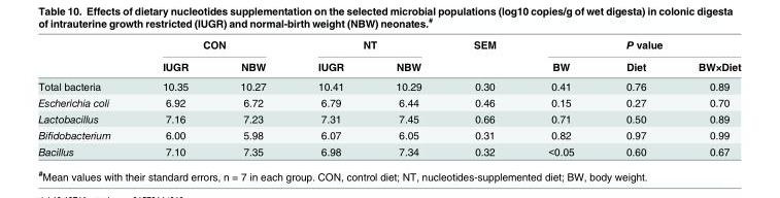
<table><thead><tr><td rowspan="2"></td><td colspan="2">CON</td><td colspan="2">NT</td><td rowspan="2">SEM</td><td colspan="3">P value</td></tr><tr><td>IUGR</td><td>NBW</td><td>IUGR</td><td>NBW</td><td>BW</td><td>Diet</td><td>BW×Diet</td></tr></thead><tbody><tr><td>Total bacteria</td><td>10.35</td><td>10.27</td><td>10.41</td><td>10.29</td><td>0.30</td><td>0.41</td><td>0.76</td><td>0.89</td></tr><tr><td>Escherichia coli</td><td>6.92</td><td>6.72</td><td>6.79</td><td>6.44</td><td>0.46</td><td>0.15</td><td>0.27</td><td>0.70</td></tr><tr><td>Lactobacillus</td><td>7.16</td><td>7.23</td><td>7.31</td><td>7.45</td><td>0.66</td><td>0.71</td><td>0.50</td><td>0.89</td></tr><tr><td>Bifidobacterium</td><td>6.00</td><td>5.98</td><td>6.07</td><td>6.05</td><td>0.31</td><td>0.82</td><td>0.97</td><td>0.99</td></tr><tr><td>Bacillus</td><td>7.10</td><td>7.35</td><td>6.98</td><td>7.34</td><td>0.32</td><td>&lt;0.05</td><td>0.60</td><td>0.67</td></tr></tbody></table>